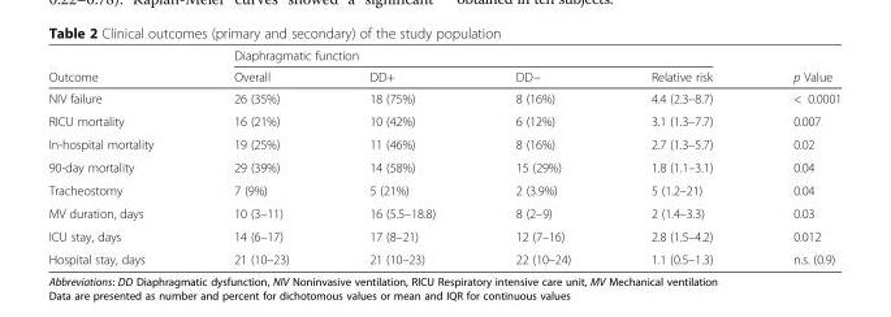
<table><thead><tr><td rowspan="2">Outcome</td><td colspan="4">Diaphragmatic function</td><td rowspan="2">p Value</td></tr><tr><td>Overall</td><td>DD+</td><td>DD−</td><td>Relative risk</td></tr></thead><tbody><tr><td>NIV failure</td><td>26 (35%)</td><td>18 (75%)</td><td>8 (16%)</td><td>4.4 (2.3–8.7)</td><td>&lt; 0.0001</td></tr><tr><td>RICU mortality</td><td>16 (21%)</td><td>10 (42%)</td><td>6 (12%)</td><td>3.1 (1.3–7.7)</td><td>0.007</td></tr><tr><td>In-hospital mortality</td><td>19 (25%)</td><td>11 (46%)</td><td>8 (16%)</td><td>2.7 (1.3–5.7)</td><td>0.02</td></tr><tr><td>90-day mortality</td><td>29 (39%)</td><td>14 (58%)</td><td>15 (29%)</td><td>1.8 (1.1–3.1)</td><td>0.04</td></tr><tr><td>Tracheostomy</td><td>7 (9%)</td><td>5 (21%)</td><td>2 (3.9%)</td><td>5 (1.2–21)</td><td>0.04</td></tr><tr><td>MV duration, days</td><td>10 (3–11)</td><td>16 (5.5–18.8)</td><td>8 (2–9)</td><td>2 (1.4–3.3)</td><td>0.03</td></tr><tr><td>ICU stay, days</td><td>14 (6–17)</td><td>17 (8–21)</td><td>12 (7–16)</td><td>2.8 (1.5–4.2)</td><td>0.012</td></tr><tr><td>Hospital stay, days</td><td>21 (10–23)</td><td>21 (10–23)</td><td>22 (10–24)</td><td>1.1 (0.5–1.3)</td><td>n.s. (0.9)</td></tr></tbody></table>